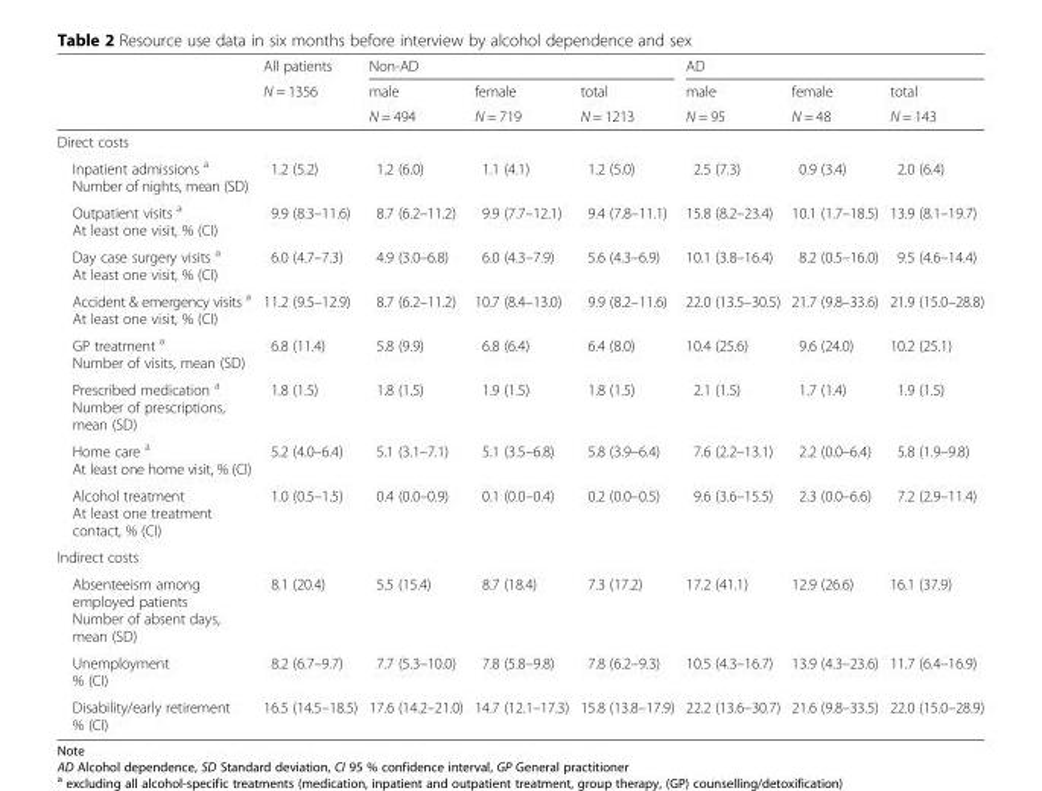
<table><thead><tr><td rowspan="3"></td><td rowspan="3">All patients N = 1356</td><td colspan="3">Non-AD</td><td colspan="3">AD</td></tr><tr><td rowspan="2">male N = 494</td><td rowspan="2">female N = 719</td><td rowspan="2">total N = 1213</td><td rowspan="2">male N = 95</td><td rowspan="2">female N = 48</td><td rowspan="2">total N = 143</td></tr><tr></tr></thead><tbody><tr><td colspan="8">Direct costs</td></tr><tr><td>Inpatient admissions <sup>a</sup> Number of nights, mean (SD)</td><td>1.2 (5.2)</td><td>1.2 (6.0)</td><td>1.1 (4.1)</td><td>1.2 (5.0)</td><td>2.5 (7.3)</td><td>0.9 (3.4)</td><td>2.0 (6.4)</td></tr><tr><td>Outpatient visits <sup>a</sup> At least one visit, % (CI)</td><td>9.9 (8.3–11.6)</td><td>8.7 (6.2–11.2)</td><td>9.9 (7.7–12.1)</td><td>9.4 (7.8–11.1)</td><td>15.8 (8.2–23.4)</td><td>10.1 (1.7–18.5)</td><td>13.9 (8.1–19.7)</td></tr><tr><td>Day case surgery visits <sup>a</sup> At least one visit, % (CI)</td><td>6.0 (4.7–7.3)</td><td>4.9 (3.0–6.8)</td><td>6.0 (4.3–7.9)</td><td>5.6 (4.3–6.9)</td><td>10.1 (3.8–16.4)</td><td>8.2 (0.5–16.0)</td><td>9.5 (4.6–14.4)</td></tr><tr><td>Accident &amp; emergency visits <sup>a</sup> At least one visit, % (CI)</td><td>11.2 (9.5–12.9)</td><td>8.7 (6.2–11.2)</td><td>10.7 (8.4–13.0)</td><td>9.9 (8.2–11.6)</td><td>22.0 (13.5–30.5)</td><td>21.7 (9.8–33.6)</td><td>21.9 (15.0–28.8)</td></tr><tr><td>GP treatment <sup>a</sup> Number of visits, mean (SD)</td><td>6.8 (11.4)</td><td>5.8 (9.9)</td><td>6.8 (6.4)</td><td>6.4 (8.0)</td><td>10.4 (25.6)</td><td>9.6 (24.0)</td><td>10.2 (25.1)</td></tr><tr><td>Prescribed medication <sup>a</sup> Number of prescriptions, mean (SD)</td><td>1.8 (1.5)</td><td>1.8 (1.5)</td><td>1.9 (1.5)</td><td>1.8 (1.5)</td><td>2.1 (1.5)</td><td>1.7 (1.4)</td><td>1.9 (1.5)</td></tr><tr><td>Home care <sup>a</sup> At least one home visit, % (CI)</td><td>5.2 (4.0–6.4)</td><td>5.1 (3.1–7.1)</td><td>5.1 (3.5–6.8)</td><td>5.8 (3.9–6.4)</td><td>7.6 (2.2–13.1)</td><td>2.2 (0.0–6.4)</td><td>5.8 (1.9–9.8)</td></tr><tr><td>Alcohol treatment At least one treatment contact, % (CI)</td><td>1.0 (0.5–1.5)</td><td>0.4 (0.0–0.9)</td><td>0.1 (0.0–0.4)</td><td>0.2 (0.0–0.5)</td><td>9.6 (3.6–15.5)</td><td>2.3 (0.0–6.6)</td><td>7.2 (2.9–11.4)</td></tr><tr><td colspan="8">Indirect costs</td></tr><tr><td>Absenteeism among employed patients Number of absent days, mean (SD)</td><td>8.1 (20.4)</td><td>5.5 (15.4)</td><td>8.7 (18.4)</td><td>7.3 (17.2)</td><td>17.2 (41.1)</td><td>12.9 (26.6)</td><td>16.1 (37.9)</td></tr><tr><td>Unemployment % (CI)</td><td>8.2 (6.7–9.7)</td><td>7.7 (5.3–10.0)</td><td>7.8 (5.8–9.8)</td><td>7.8 (6.2–9.3)</td><td>10.5 (4.3–16.7)</td><td>13.9 (4.3–23.6)</td><td>11.7 (6.4–16.9)</td></tr><tr><td>Disability/early retirement % (CI)</td><td>16.5 (14.5–18.5)</td><td>17.6 (14.2–21.0)</td><td>14.7 (12.1–17.3)</td><td>15.8 (13.8–17.9)</td><td>22.2 (13.6–30.7)</td><td>21.6 (9.8–33.5)</td><td>22.0 (15.0–28.9)</td></tr></tbody></table>